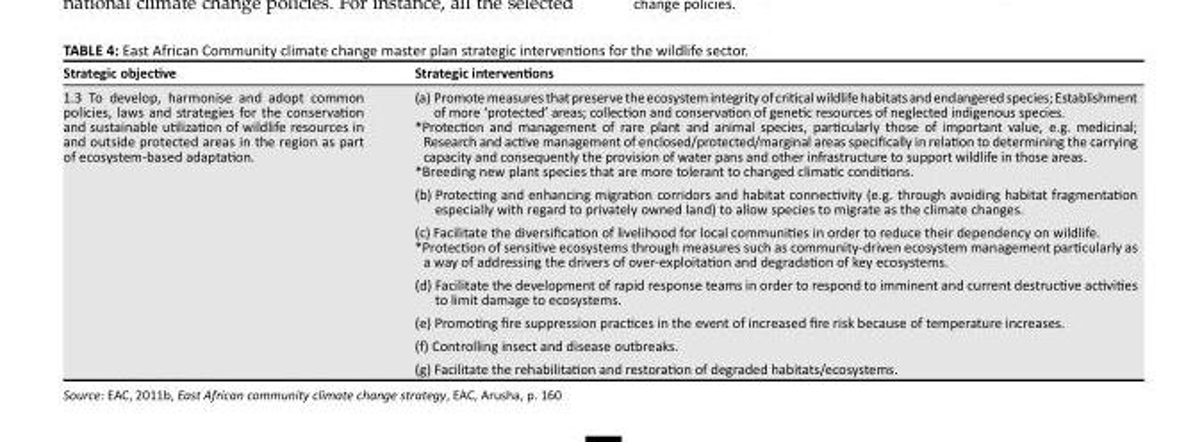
<table><thead><tr><td>Strategic objective</td><td>Strategic interventions</td></tr></thead><tbody><tr><td>1.3 To develop, harmonise and adopt common policies, laws and strategies for the conservation and sustainable utilization of wildlife resources in and outside protected areas in the region as part of ecosystem-based adaptation.</td><td>(a) Promote measures that preserve the ecosystem integrity of critical wildlife habitats and endangered species; Establishment of more ‘protected’ areas; collection and conservation of genetic resources of neglected indigenous species. *Protection and management of rare plant and animal species, particularly those of important value, e.g. medicinal; Research and active management of enclosed/protected/marginal areas specifically in relation to determining the carrying capacity and consequently the provision of water pans and other infrastructure to support wildlife in those areas. *Breeding new plant species that are more tolerant to changed climatic conditions. (b) Protecting and enhancing migration corridors and habitat connectivity (e.g. through avoiding habitat fragmentation especially with regard to privately owned land) to allow species to migrate as the climate changes. (c) Facilitate the diversification of livelihood for local communities in order to reduce their dependency on wildlife. *Protection of sensitive ecosystems through measures such as community-driven ecosystem management particularly as a way of addressing the drivers of over-exploitation and degradation of key ecosystems. (d) Facilitate the development of rapid response teams in order to respond to imminent and current destructive activities to limit damage to ecosystems. (e) Promoting fire suppression practices in the event of increased fire risk because of temperature increases. (f) Controlling insect and disease outbreaks. (g) Facilitate the rehabilitation and restoration of degraded habitats/ecosystems.</td></tr></tbody></table>